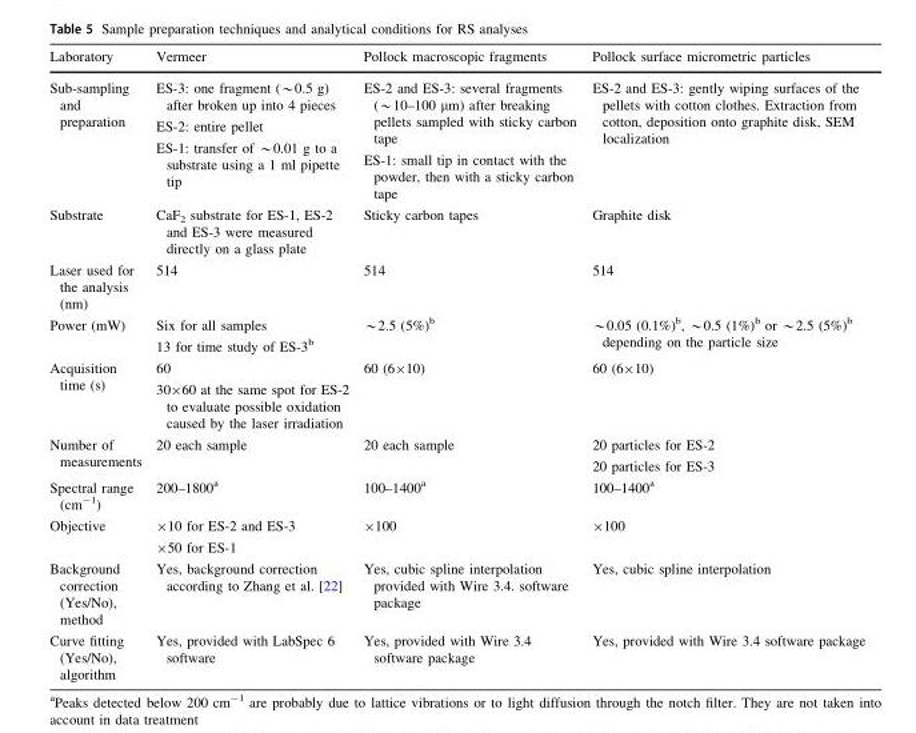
<table><thead><tr><td>Laboratory</td><td>Vermeer</td><td>Pollock macroscopic fragments</td><td>Pollock surface micrometric particles</td></tr></thead><tbody><tr><td>Sub-sampling and preparation</td><td>ES-3: one fragment (*0.5 g) after broken up into 4 pieces ES-2: entire pellet ES-1: transfer of *0.01 g to a substrate using a 1 ml pipette tip</td><td>ES-2 and ES-3: several fragments (*10–100 lm) after breaking pellets sampled with sticky carbon tape ES-1: small tip in contact with the powder, then with a sticky carbon tape</td><td>ES-2 and ES-3: gently wiping surfaces of the pellets with cotton clothes. Extraction from cotton, deposition onto graphite disk, SEM localization</td></tr><tr><td>Substrate</td><td>CaF<sub>2</sub> substrate for ES-1, ES-2 and ES-3 were measured directly on a glass plate</td><td>Sticky carbon tapes</td><td>Graphite disk</td></tr><tr><td>Laser used for the analysis (nm)</td><td>514</td><td>514</td><td>514</td></tr><tr><td>Power (mW)</td><td>Six for all samples 13 for time study of ES-3<sup>b</sup></td><td>*2.5 (5%)b</td><td>*0.05 (0.1%)b, *0.5 (1%)b or *2.5 (5%)b depending on the particle size</td></tr><tr><td>Acquisition time (s)</td><td>60 30×60 at the same spot for ES-2 to evaluate possible oxidation caused by the laser irradiation</td><td>60 (6×10)</td><td>60 (6×10)</td></tr><tr><td>Number of measurements</td><td>20 each sample</td><td>20 each sample</td><td>20 particles for ES-2 20 particles for ES-3</td></tr><tr><td>Spectral range (cm<sup>-1</sup>)</td><td>200–1800<sup>a</sup></td><td>100–1400<sup>a</sup></td><td>100–1400<sup>a</sup></td></tr><tr><td>Objective</td><td>×10 for ES-2 and ES-3 ×50 for ES-1</td><td>×100</td><td>×100</td></tr><tr><td>Background correction (Yes/No), method</td><td>Yes, background correction according to Zhang et al. [22]</td><td>Yes, cubic spline interpolation provided with Wire 3.4. software package</td><td>Yes, cubic spline interpolation</td></tr><tr><td>Curve fitting (Yes/No), algorithm</td><td>Yes, provided with LabSpec 6 software</td><td>Yes, provided with Wire 3.4 software package</td><td>Yes, provided with Wire 3.4 software package</td></tr></tbody></table>